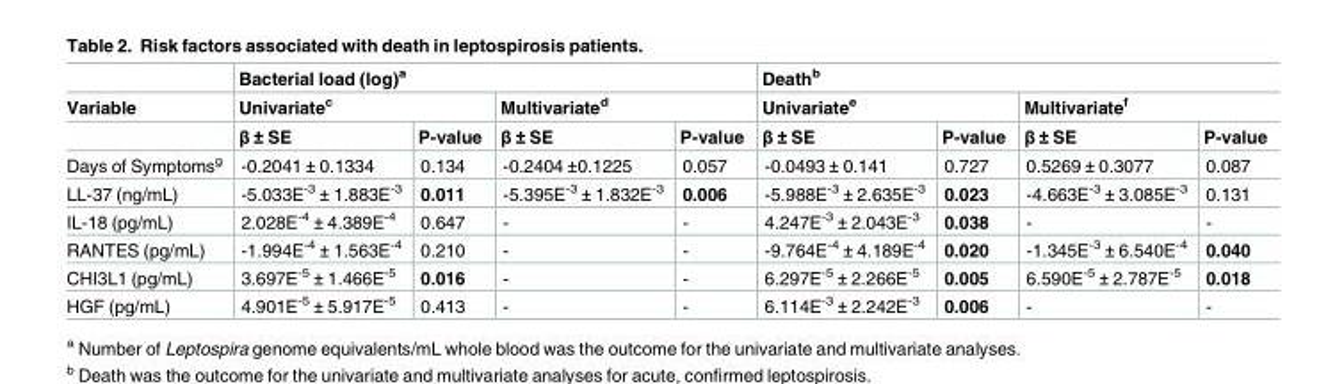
<table><thead><tr><td rowspan="3">Variable</td><td colspan="4">Bacterial load (log)<sup>a</sup></td><td colspan="4">Death<sup>b</sup></td></tr><tr><td colspan="2">Univariate<sup>c</sup></td><td colspan="2">Multivariate<sup>d</sup></td><td colspan="2">Univariate<sup>e</sup></td><td colspan="2">Multivariate<sup>f</sup></td></tr><tr><td>β ± SE</td><td>P-value</td><td>β ± SE</td><td>P-value</td><td>β ± SE</td><td>P-value</td><td>β ± SE</td><td>P-value</td></tr></thead><tbody><tr><td>Days of Symptoms<sup>g</sup></td><td>-0.2041 ± 0.1334</td><td>0.134</td><td>-0.2404 ±0.1225</td><td>0.057</td><td>-0.0493 ± 0.141</td><td>0.727</td><td>0.5269 ± 0.3077</td><td>0.087</td></tr><tr><td>LL-37 (ng/mL)</td><td>-5.033E<sup>-3</sup> ± 1.883E<sup>-3</sup></td><td>0.011</td><td>-5.395E<sup>-3</sup> ± 1.832E<sup>-3</sup></td><td>0.006</td><td>-5.988E<sup>-3</sup> ± 2.635E<sup>-3</sup></td><td>0.023</td><td>-4.663E<sup>-3</sup> ± 3.085E<sup>-3</sup></td><td>0.131</td></tr><tr><td>IL-18 (pg/mL)</td><td>2.028E<sup>-4</sup> ± 4.389E<sup>-4</sup></td><td>0.647</td><td>-</td><td>-</td><td>4.247E<sup>-3</sup> ± 2.043E<sup>-3</sup></td><td>0.038</td><td>-</td><td>-</td></tr><tr><td>RANTES (pg/mL)</td><td>-1.994E<sup>-4</sup> ± 1.563E<sup>-4</sup></td><td>0.210</td><td>-</td><td>-</td><td>-9.764E<sup>-4</sup> ± 4.189E<sup>-4</sup></td><td>0.020</td><td>-1.345E<sup>-3</sup> ± 6.540E<sup>-4</sup></td><td>0.040</td></tr><tr><td>CHI3L1 (pg/mL)</td><td>3.697E<sup>-5</sup> ± 1.466E<sup>-5</sup></td><td>0.016</td><td>-</td><td>-</td><td>6.297E<sup>-5</sup> ± 2.266E<sup>-5</sup></td><td>0.005</td><td>6.590E<sup>-5</sup> ± 2.787E<sup>-5</sup></td><td>0.018</td></tr><tr><td>HGF (pg/mL)</td><td>4.901E<sup>-5</sup> ± 5.917E<sup>-5</sup></td><td>0.413</td><td>-</td><td>-</td><td>6.114E<sup>-3</sup> ± 2.242E<sup>-3</sup></td><td>0.006</td><td>-</td><td>-</td></tr></tbody></table>